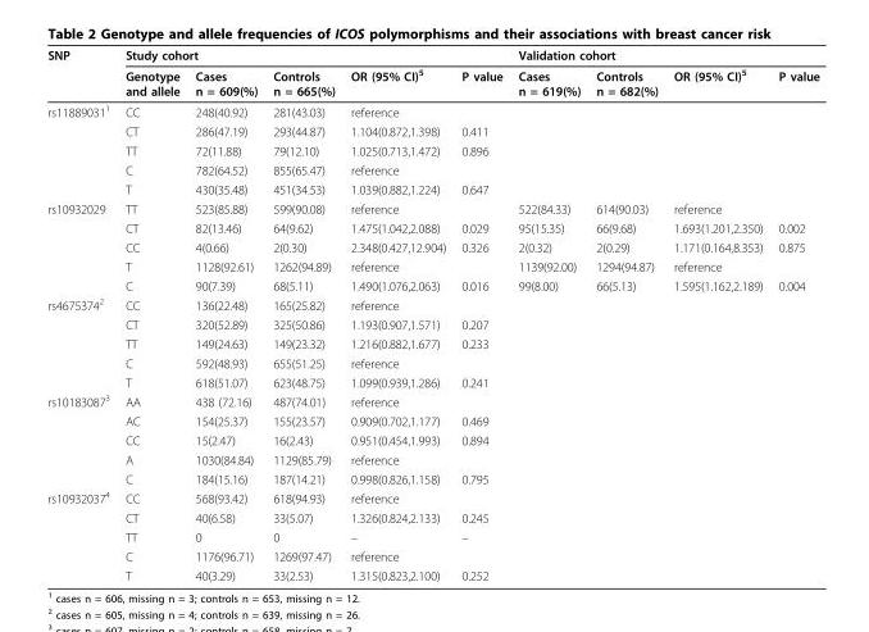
<table><thead><tr><td rowspan="2">SNP</td><td colspan="5">Study cohort</td><td colspan="4">Validation cohort</td></tr><tr><td>Genotype and allele</td><td>Cases n = 609(%)</td><td>Controls n = 665(%)</td><td>OR (95% CI)<sup>5</sup></td><td>P value</td><td>Cases n = 619(%)</td><td>Controls n = 682(%)</td><td>OR (95% CI)<sup>5</sup></td><td>P value</td></tr></thead><tbody><tr><td rowspan="5">rs11889031<sup>1</sup></td><td>CC</td><td>248(40.92)</td><td>281(43.03)</td><td>reference</td><td></td><td></td><td></td><td></td><td></td></tr><tr><td>CT</td><td>286(47.19)</td><td>293(44.87)</td><td>1.104(0.872,1.398)</td><td>0.411</td><td></td><td></td><td></td><td></td></tr><tr><td>TT</td><td>72(11.88)</td><td>79(12.10)</td><td>1.025(0.713,1.472)</td><td>0.896</td><td></td><td></td><td></td><td></td></tr><tr><td>C</td><td>782(64.52)</td><td>855(65.47)</td><td>reference</td><td></td><td></td><td></td><td></td><td></td></tr><tr><td>T</td><td>430(35.48)</td><td>451(34.53)</td><td>1.039(0.882,1.224)</td><td>0.647</td><td></td><td></td><td></td><td></td></tr><tr><td rowspan="5">rs10932029</td><td>TT</td><td>523(85.88)</td><td>599(90.08)</td><td>reference</td><td></td><td>522(84.33)</td><td>614(90.03)</td><td>reference</td><td></td></tr><tr><td>CT</td><td>82(13.46)</td><td>64(9.62)</td><td>1.475(1.042,2.088)</td><td>0.029</td><td>95(15.35)</td><td>66(9.68)</td><td>1.693(1.201,2.350)</td><td>0.002</td></tr><tr><td>CC</td><td>4(0.66)</td><td>2(0.30)</td><td>2.348(0.427,12.904)</td><td>0.326</td><td>2(0.32)</td><td>2(0.29)</td><td>1.171(0.164,8.353)</td><td>0.875</td></tr><tr><td>T</td><td>1128(92.61)</td><td>1262(94.89)</td><td>reference</td><td></td><td>1139(92.00)</td><td>1294(94.87)</td><td>reference</td><td></td></tr><tr><td>C</td><td>90(7.39)</td><td>68(5.11)</td><td>1.490(1.076,2.063)</td><td>0.016</td><td>99(8.00)</td><td>66(5.13)</td><td>1.595(1.162,2.189)</td><td>0.004</td></tr><tr><td rowspan="5">rs4675374<sup>2</sup></td><td>CC</td><td>136(22.48)</td><td>165(25.82)</td><td>reference</td><td></td><td></td><td></td><td></td><td></td></tr><tr><td>CT</td><td>320(52.89)</td><td>325(50.86)</td><td>1.193(0.907,1.571)</td><td>0.207</td><td></td><td></td><td></td><td></td></tr><tr><td>TT</td><td>149(24.63)</td><td>149(23.32)</td><td>1.216(0.882,1.677)</td><td>0.233</td><td></td><td></td><td></td><td></td></tr><tr><td>C</td><td>592(48.93)</td><td>655(51.25)</td><td>reference</td><td></td><td></td><td></td><td></td><td></td></tr><tr><td>T</td><td>618(51.07)</td><td>623(48.75)</td><td>1.099(0.939,1.286)</td><td>0.241</td><td></td><td></td><td></td><td></td></tr><tr><td rowspan="5">rs10183087<sup>3</sup></td><td>AA</td><td>438 (72.16)</td><td>487(74.01)</td><td>reference</td><td></td><td></td><td></td><td></td><td></td></tr><tr><td>AC</td><td>154(25.37)</td><td>155(23.57)</td><td>0.909(0.702,1.177)</td><td>0.469</td><td></td><td></td><td></td><td></td></tr><tr><td>CC</td><td>15(2.47)</td><td>16(2.43)</td><td>0.951(0.454,1.993)</td><td>0.894</td><td></td><td></td><td></td><td></td></tr><tr><td>A</td><td>1030(84.84)</td><td>1129(85.79)</td><td>reference</td><td></td><td></td><td></td><td></td><td></td></tr><tr><td>C</td><td>184(15.16)</td><td>187(14.21)</td><td>0.998(0.826,1.158)</td><td>0.795</td><td></td><td></td><td></td><td></td></tr><tr><td rowspan="5">rs10932037<sup>4</sup></td><td>CC</td><td>568(93.42)</td><td>618(94.93)</td><td>reference</td><td></td><td></td><td></td><td></td><td></td></tr><tr><td>CT</td><td>40(6.58)</td><td>33(5.07)</td><td>1.326(0.824,2.133)</td><td>0.245</td><td></td><td></td><td></td><td></td></tr><tr><td>TT</td><td>0</td><td>0</td><td>–</td><td>–</td><td></td><td></td><td></td><td></td></tr><tr><td>C</td><td>1176(96.71)</td><td>1269(97.47)</td><td>reference</td><td></td><td></td><td></td><td></td><td></td></tr><tr><td>T</td><td>40(3.29)</td><td>33(2.53)</td><td>1.315(0.823,2.100)</td><td>0.252</td><td></td><td></td><td></td><td></td></tr></tbody></table>